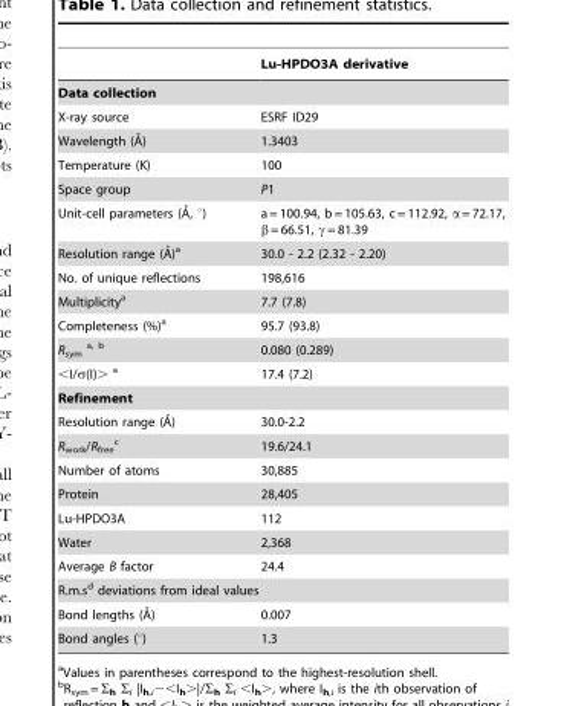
<table><thead><tr><td></td><td>Lu-HPDO3A derivative</td></tr></thead><tbody><tr><td colspan="2">Data collection</td></tr><tr><td>X-ray source</td><td>ESRF ID29</td></tr><tr><td>Wavelength (A˚)</td><td>1.3403</td></tr><tr><td>Temperature (K)</td><td>100</td></tr><tr><td>Space group</td><td>P1</td></tr><tr><td>Unit-cell parameters (A˚, u)</td><td>a = 100.94, b = 105.63, c = 112.92, α = 72.17, β = 66.51, γ = 81.39</td></tr><tr><td>Resolution range (A˚)a</td><td>30.0 - 2.2 (2.32 - 2.20)</td></tr><tr><td>No. of unique reflections</td><td>198,616</td></tr><tr><td>Multiplicity<sup>a</sup></td><td>7.7 (7.8)</td></tr><tr><td>Completeness (%)<sup>a</sup></td><td>95.7 (93.8)</td></tr><tr><td>R<sub>sym</sub> a<sup>,</sup> b</td><td>0.080 (0.289)</td></tr><tr><td>&lt;I/σ(I)&gt; a</td><td>17.4 (7.2)</td></tr><tr><td colspan="2">Refinement</td></tr><tr><td>Resolution range (A˚)</td><td>30.0-2.2</td></tr><tr><td>R<sub>work</sub>/R<sub>free</sub> c</td><td>19.6/24.1</td></tr><tr><td>Number of atoms</td><td>30,885</td></tr><tr><td>Protein</td><td>28,405</td></tr><tr><td>Lu-HPDO3A</td><td>112</td></tr><tr><td>Water</td><td>2,368</td></tr><tr><td>Average B factor</td><td>24.4</td></tr><tr><td colspan="2">R.m.s<sup>d</sup> deviations from ideal values</td></tr><tr><td>Bond lengths (A˚)</td><td>0.007</td></tr><tr><td>Bond angles (°)</td><td>1.3</td></tr></tbody></table>